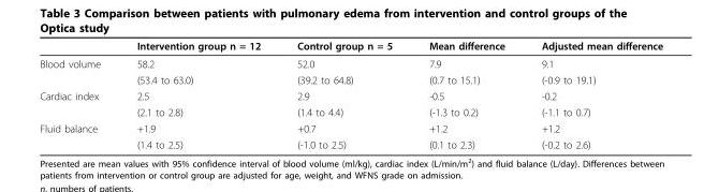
<table><thead><tr><td></td><td>Intervention group n = 12</td><td>Control group n = 5</td><td>Mean difference</td><td>Adjusted mean difference</td></tr></thead><tbody><tr><td rowspan="2">Blood volume</td><td>58.2</td><td>52.0</td><td>7.9</td><td>9.1</td></tr><tr><td>(53.4 to 63.0)</td><td>(39.2 to 64.8)</td><td>(0.7 to 15.1)</td><td>(-0.9 to 19.1)</td></tr><tr><td rowspan="2">Cardiac index</td><td>2.5</td><td>2.9</td><td>-0.5</td><td>-0.2</td></tr><tr><td>(2.1 to 2.8)</td><td>(1.4 to 4.4)</td><td>(-1.3 to 0.2)</td><td>(-1.1 to 0.7)</td></tr><tr><td rowspan="2">Fluid balance</td><td>+1.9</td><td>+0.7</td><td>+1.2</td><td>+1.2</td></tr><tr><td>(1.4 to 2.5)</td><td>(-1.0 to 2.5)</td><td>(0.1 to 2.3)</td><td>(-0.2 to 2.6)</td></tr></tbody></table>